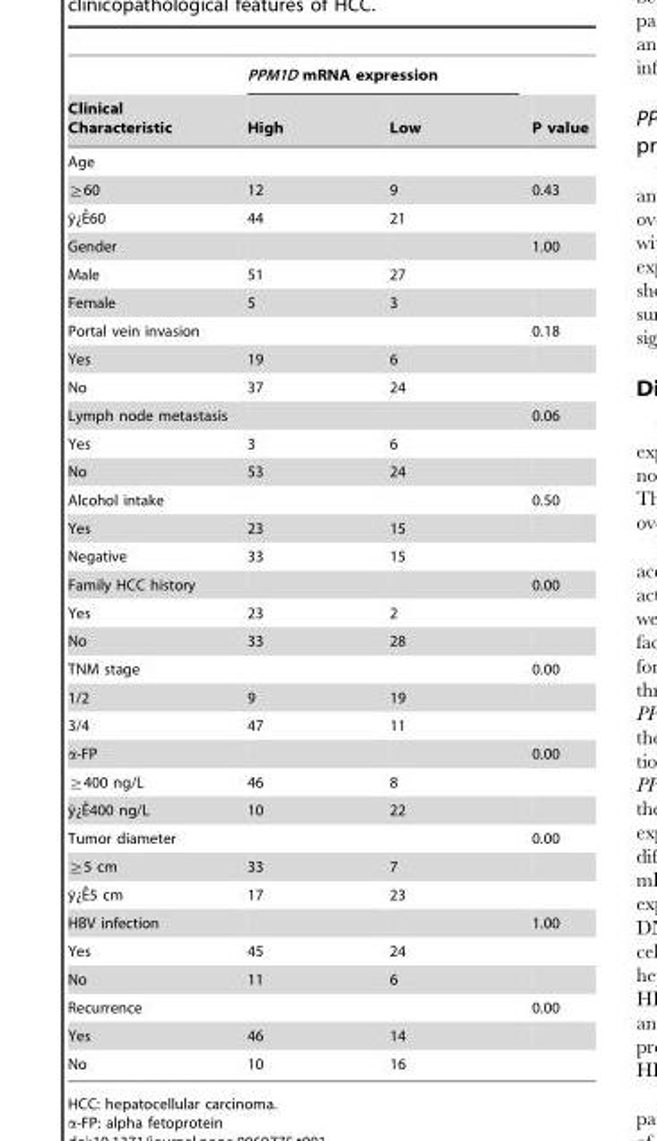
<table><thead><tr><td rowspan="2">Clinical Characteristic</td><td colspan="2">PPM1D mRNA expression</td><td rowspan="2">P value</td></tr><tr><td>High</td><td>Low</td></tr></thead><tbody><tr><td colspan="4">Age</td></tr><tr><td>≧60</td><td>12</td><td>9</td><td>0.43</td></tr><tr><td>y¨¿Eˆ60</td><td>44</td><td>21</td><td></td></tr><tr><td>Gender</td><td></td><td></td><td>1.00</td></tr><tr><td>Male</td><td>51</td><td>27</td><td></td></tr><tr><td>Female</td><td>5</td><td>3</td><td></td></tr><tr><td>Portal vein invasion</td><td></td><td></td><td>0.18</td></tr><tr><td>Yes</td><td>19</td><td>6</td><td></td></tr><tr><td>No</td><td>37</td><td>24</td><td></td></tr><tr><td>Lymph node metastasis</td><td></td><td></td><td>0.06</td></tr><tr><td>Yes</td><td>3</td><td>6</td><td></td></tr><tr><td>No</td><td>53</td><td>24</td><td></td></tr><tr><td>Alcohol intake</td><td></td><td></td><td>0.50</td></tr><tr><td>Yes</td><td>23</td><td>15</td><td></td></tr><tr><td>Negative</td><td>33</td><td>15</td><td></td></tr><tr><td>Family HCC history</td><td></td><td></td><td>0.00</td></tr><tr><td>Yes</td><td>23</td><td>2</td><td></td></tr><tr><td>No</td><td>33</td><td>28</td><td></td></tr><tr><td>TNM stage</td><td></td><td></td><td>0.00</td></tr><tr><td>1/2</td><td>9</td><td>19</td><td></td></tr><tr><td>3/4</td><td>47</td><td>11</td><td></td></tr><tr><td>α-FP</td><td></td><td></td><td>0.00</td></tr><tr><td>≧400 ng/L</td><td>46</td><td>8</td><td></td></tr><tr><td>y¨¿Eˆ400 ng/L</td><td>10</td><td>22</td><td></td></tr><tr><td>Tumor diameter</td><td></td><td></td><td>0.00</td></tr><tr><td>≧5 cm</td><td>33</td><td>7</td><td></td></tr><tr><td>y¨¿Eˆ5 cm</td><td>17</td><td>23</td><td></td></tr><tr><td>HBV infection</td><td></td><td></td><td>1.00</td></tr><tr><td>Yes</td><td>45</td><td>24</td><td></td></tr><tr><td>No</td><td>11</td><td>6</td><td></td></tr><tr><td>Recurrence</td><td></td><td></td><td>0.00</td></tr><tr><td>Yes</td><td>46</td><td>14</td><td></td></tr><tr><td>No</td><td>10</td><td>16</td><td></td></tr></tbody></table>